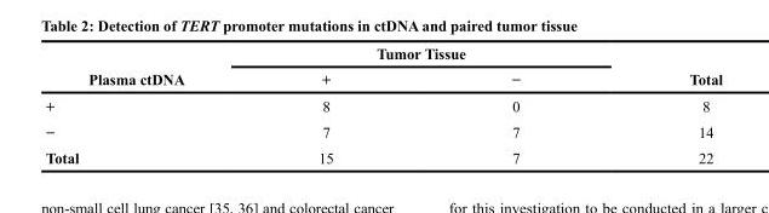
<table><thead><tr><td rowspan="2">Plasma ctDNA</td><td colspan="2">Tumor Tissue</td><td rowspan="2">Total</td></tr><tr><td>+</td><td>−</td></tr></thead><tbody><tr><td>+</td><td>8</td><td>0</td><td>8</td></tr><tr><td>−</td><td>7</td><td>7</td><td>14</td></tr><tr><td>Total</td><td>15</td><td>7</td><td>22</td></tr></tbody></table>